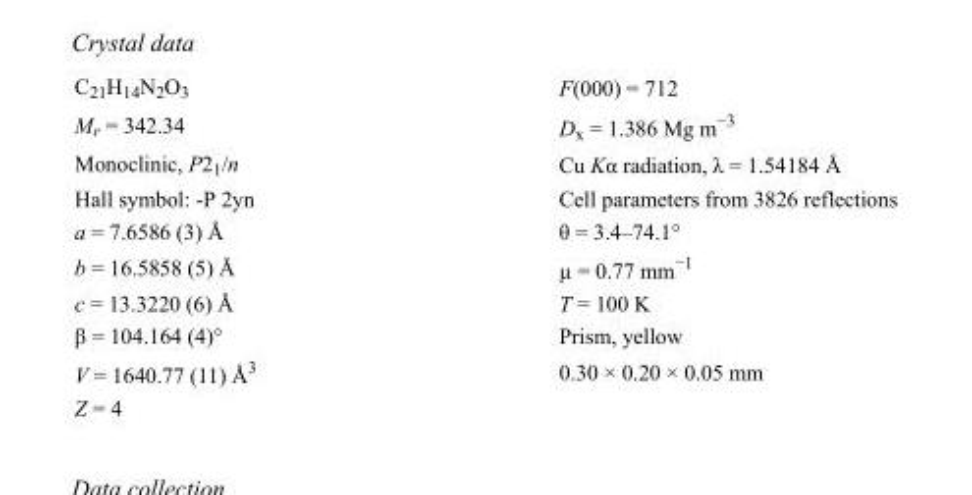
<table><tbody><tr><td>C<sub>21</sub>H<sub>14</sub>N<sub>2</sub>O<sub>3</sub></td><td>F(000) = 712</td></tr><tr><td>M<sub>r</sub> = 342.34</td><td>D<sub>x</sub> = 1.386 Mg m<sup>−3</sup></td></tr><tr><td>Monoclinic, P2<sub>1</sub>/n</td><td>Cu Kα radiation, λ = 1.54184 Å</td></tr><tr><td>Hall symbol: -P 2yn</td><td>Cell parameters from 3826 reflections</td></tr><tr><td>a = 7.6586 (3) Å</td><td>θ = 3.4–74.1°</td></tr><tr><td>b = 16.5858 (5) Å</td><td>µ = 0.77 mm<sup>−1</sup></td></tr><tr><td>c = 13.3220 (6) Å</td><td>T = 100 K</td></tr><tr><td>β = 104.164 (4)°</td><td>Prism, yellow</td></tr><tr><td>V = 1640.77 (11) Å<sup>3</sup></td><td>0.30 × 0.20 × 0.05 mm</td></tr><tr><td>Z = 4</td><td></td></tr></tbody></table>